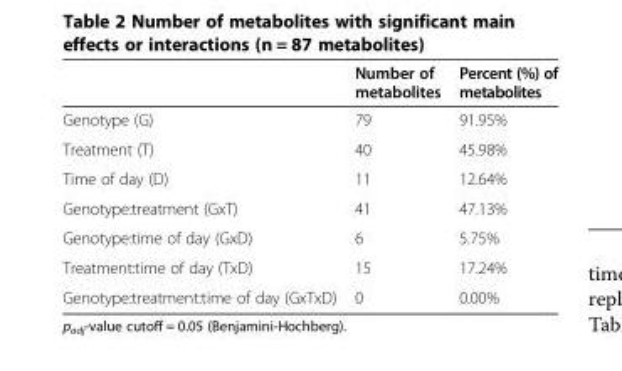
<table><thead><tr><td></td><td>Number of metabolites</td><td>Percent (%) of metabolites</td></tr></thead><tbody><tr><td>Genotype (G)</td><td>79</td><td>91.95%</td></tr><tr><td>Treatment (T)</td><td>40</td><td>45.98%</td></tr><tr><td>Time of day (D)</td><td>11</td><td>12.64%</td></tr><tr><td>Genotype:treatment (GxT)</td><td>41</td><td>47.13%</td></tr><tr><td>Genotype:time of day (GxD)</td><td>6</td><td>5.75%</td></tr><tr><td>Treatment:time of day (TxD)</td><td>15</td><td>17.24%</td></tr><tr><td>Genotype:treatment:time of day (GxTxD)</td><td>0</td><td>0.00%</td></tr></tbody></table>